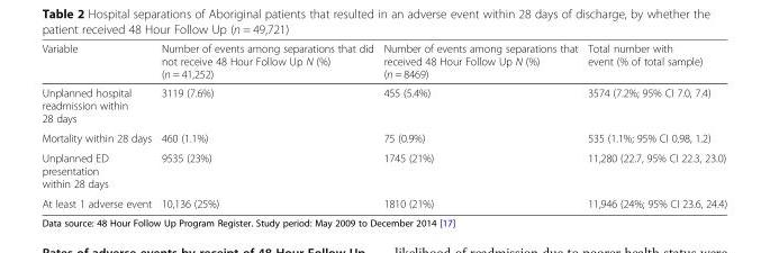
<table><thead><tr><td>Variable</td><td>Number of events among separations that did not receive 48 Hour Follow Up N (%) (n = 41,252)</td><td>Number of events among separations that received 48 Hour Follow Up N (%) (n = 8469)</td><td>Total number with event (% of total sample)</td></tr></thead><tbody><tr><td>Unplanned hospital readmission within 28 days</td><td>3119 (7.6%)</td><td>455 (5.4%)</td><td>3574 (7.2%; 95% CI 7.0, 7.4)</td></tr><tr><td>Mortality within 28 days</td><td>460 (1.1%)</td><td>75 (0.9%)</td><td>535 (1.1%; 95% CI 0.98, 1.2)</td></tr><tr><td>Unplanned ED presentation within 28 days</td><td>9535 (23%)</td><td>1745 (21%)</td><td>11,280 (22.7, 95% CI 22.3, 23.0)</td></tr><tr><td>At least 1 adverse event</td><td>10,136 (25%)</td><td>1810 (21%)</td><td>11,946 (24%; 95% CI 23.6, 24.4)</td></tr></tbody></table>